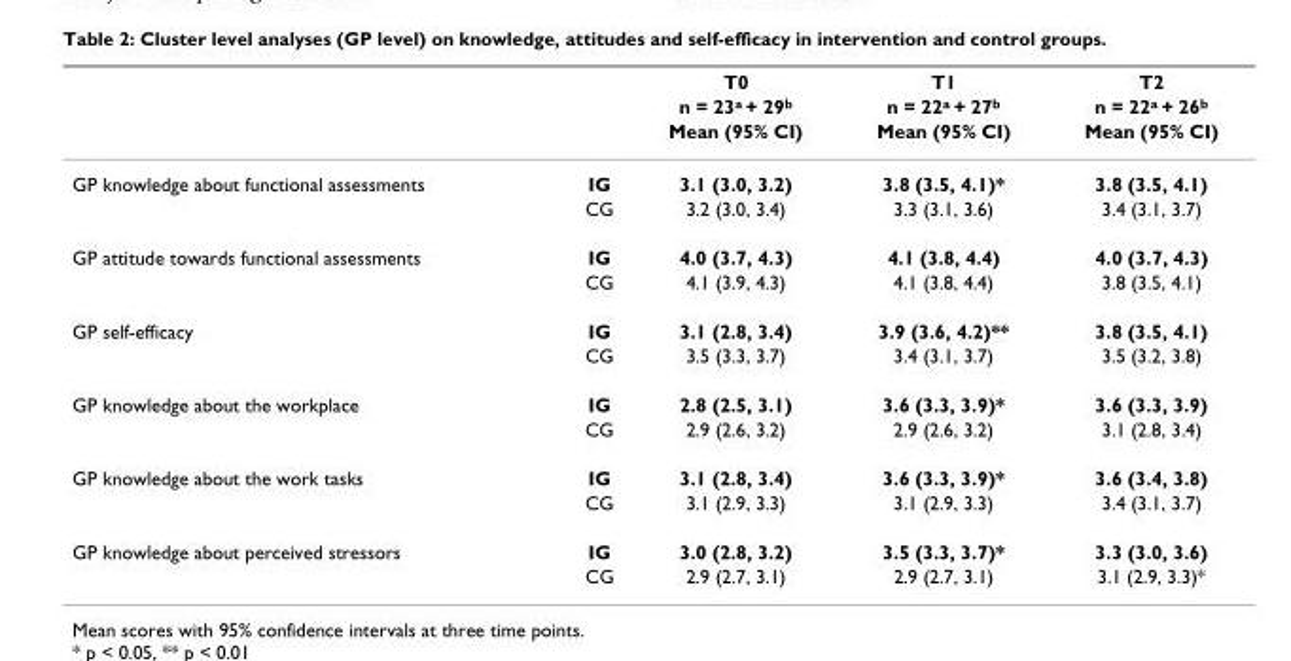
<table><thead><tr><td rowspan="3"></td><td rowspan="3"></td><td rowspan="3">T0 n = 23<sup>a</sup> + 29<sup>b</sup> Mean (95% CI)</td><td rowspan="3">T1 n = 22<sup>a</sup> + 27<sup>b</sup> Mean (95% CI)</td><td rowspan="3">T2 n = 22<sup>a</sup> + 26<sup>b</sup> Mean (95% CI)</td></tr><tr></tr><tr></tr></thead><tbody><tr><td rowspan="2">GP knowledge about functional assessments</td><td>IG</td><td>3.1 (3.0, 3.2)</td><td>3.8 (3.5, 4.1)*</td><td>3.8 (3.5, 4.1)</td></tr><tr><td>CG</td><td>3.2 (3.0, 3.4)</td><td>3.3 (3.1, 3.6)</td><td>3.4 (3.1, 3.7)</td></tr><tr><td rowspan="2">GP attitude towards functional assessments</td><td>IG</td><td>4.0 (3.7, 4.3)</td><td>4.1 (3.8, 4.4)</td><td>4.0 (3.7, 4.3)</td></tr><tr><td>CG</td><td>4.1 (3.9, 4.3)</td><td>4.1 (3.8, 4.4)</td><td>3.8 (3.5, 4.1)</td></tr><tr><td rowspan="2">GP self-efficacy</td><td>IG</td><td>3.1 (2.8, 3.4)</td><td>3.9 (3.6, 4.2)**</td><td>3.8 (3.5, 4.1)</td></tr><tr><td>CG</td><td>3.5 (3.3, 3.7)</td><td>3.4 (3.1, 3.7)</td><td>3.5 (3.2, 3.8)</td></tr><tr><td rowspan="2">GP knowledge about the workplace</td><td>IG</td><td>2.8 (2.5, 3.1)</td><td>3.6 (3.3, 3.9)*</td><td>3.6 (3.3, 3.9)</td></tr><tr><td>CG</td><td>2.9 (2.6, 3.2)</td><td>2.9 (2.6, 3.2)</td><td>3.1 (2.8, 3.4)</td></tr><tr><td rowspan="2">GP knowledge about the work tasks</td><td>IG</td><td>3.1 (2.8, 3.4)</td><td>3.6 (3.3, 3.9)*</td><td>3.6 (3.4, 3.8)</td></tr><tr><td>CG</td><td>3.1 (2.9, 3.3)</td><td>3.1 (2.9, 3.3)</td><td>3.4 (3.1, 3.7)</td></tr><tr><td rowspan="2">GP knowledge about perceived stressors</td><td>IG</td><td>3.0 (2.8, 3.2)</td><td>3.5 (3.3, 3.7)*</td><td>3.3 (3.0, 3.6)</td></tr><tr><td>CG</td><td>2.9 (2.7, 3.1)</td><td>2.9 (2.7, 3.1)</td><td>3.1 (2.9, 3.3)*</td></tr></tbody></table>